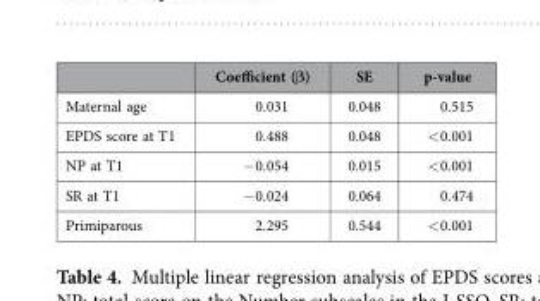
<table><thead><tr><td></td><td>Coefficient (β)</td><td>SE</td><td>p-value</td></tr></thead><tbody><tr><td>Maternal age</td><td>0.031</td><td>0.048</td><td>0.515</td></tr><tr><td>EPDS score at T1</td><td>0.488</td><td>0.048</td><td>&lt; 0.001</td></tr><tr><td>NP at T1</td><td>− 0.054</td><td>0.015</td><td>&lt; 0.001</td></tr><tr><td>SR at T1</td><td>− 0.024</td><td>0.064</td><td>0.474</td></tr><tr><td>Primiparous</td><td>2.295</td><td>0.544</td><td>&lt; 0.001</td></tr></tbody></table>